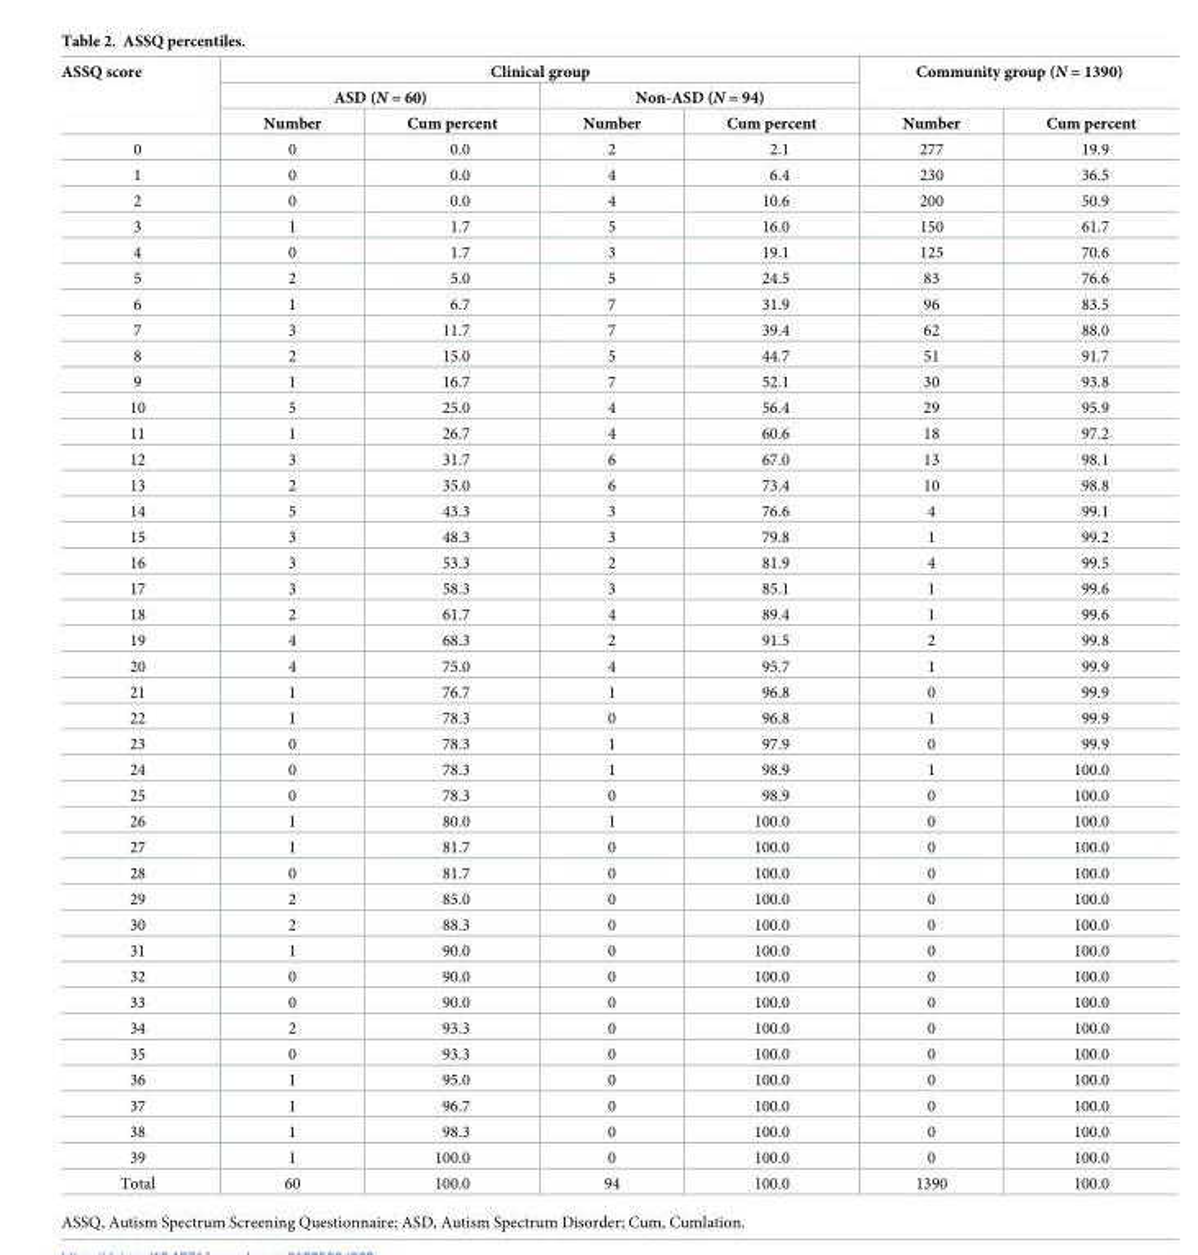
<table><thead><tr><td rowspan="3">ASSQ score</td><td colspan="4">Clinical group</td><td rowspan="2" colspan="2">Community group (N = 1390)</td></tr><tr><td colspan="2">ASD (N = 60)</td><td colspan="2">Non-ASD (N = 94)</td></tr><tr><td>Number</td><td>Cum percent</td><td>Number</td><td>Cum percent</td><td>Number</td><td>Cum percent</td></tr></thead><tbody><tr><td>0</td><td>0</td><td>0.0</td><td>2</td><td>2.1</td><td>277</td><td>19.9</td></tr><tr><td>1</td><td>0</td><td>0.0</td><td>4</td><td>6.4</td><td>230</td><td>36.5</td></tr><tr><td>2</td><td>0</td><td>0.0</td><td>4</td><td>10.6</td><td>200</td><td>50.9</td></tr><tr><td>3</td><td>1</td><td>1.7</td><td>5</td><td>16.0</td><td>150</td><td>61.7</td></tr><tr><td>4</td><td>0</td><td>1.7</td><td>3</td><td>19.1</td><td>125</td><td>70.6</td></tr><tr><td>5</td><td>2</td><td>5.0</td><td>5</td><td>24.5</td><td>83</td><td>76.6</td></tr><tr><td>6</td><td>1</td><td>6.7</td><td>7</td><td>31.9</td><td>96</td><td>83.5</td></tr><tr><td>7</td><td>3</td><td>11.7</td><td>7</td><td>39.4</td><td>62</td><td>88.0</td></tr><tr><td>8</td><td>2</td><td>15.0</td><td>5</td><td>44.7</td><td>51</td><td>91.7</td></tr><tr><td>9</td><td>1</td><td>16.7</td><td>7</td><td>52.1</td><td>30</td><td>93.8</td></tr><tr><td>10</td><td>5</td><td>25.0</td><td>4</td><td>56.4</td><td>29</td><td>95.9</td></tr><tr><td>11</td><td>1</td><td>26.7</td><td>4</td><td>60.6</td><td>18</td><td>97.2</td></tr><tr><td>12</td><td>3</td><td>31.7</td><td>6</td><td>67.0</td><td>13</td><td>98.1</td></tr><tr><td>13</td><td>2</td><td>35.0</td><td>6</td><td>73.4</td><td>10</td><td>98.8</td></tr><tr><td>14</td><td>5</td><td>43.3</td><td>3</td><td>76.6</td><td>4</td><td>99.1</td></tr><tr><td>15</td><td>3</td><td>48.3</td><td>3</td><td>79.8</td><td>1</td><td>99.2</td></tr><tr><td>16</td><td>3</td><td>53.3</td><td>2</td><td>81.9</td><td>4</td><td>99.5</td></tr><tr><td>17</td><td>3</td><td>58.3</td><td>3</td><td>85.1</td><td>1</td><td>99.6</td></tr><tr><td>18</td><td>2</td><td>61.7</td><td>4</td><td>89.4</td><td>1</td><td>99.6</td></tr><tr><td>19</td><td>4</td><td>68.3</td><td>2</td><td>91.5</td><td>2</td><td>99.8</td></tr><tr><td>20</td><td>4</td><td>75.0</td><td>4</td><td>95.7</td><td>1</td><td>99.9</td></tr><tr><td>21</td><td>1</td><td>76.7</td><td>1</td><td>96.8</td><td>0</td><td>99.9</td></tr><tr><td>22</td><td>1</td><td>78.3</td><td>0</td><td>96.8</td><td>1</td><td>99.9</td></tr><tr><td>23</td><td>0</td><td>78.3</td><td>1</td><td>97.9</td><td>0</td><td>99.9</td></tr><tr><td>24</td><td>0</td><td>78.3</td><td>1</td><td>98.9</td><td>1</td><td>100.0</td></tr><tr><td>25</td><td>0</td><td>78.3</td><td>0</td><td>98.9</td><td>0</td><td>100.0</td></tr><tr><td>26</td><td>1</td><td>80.0</td><td>1</td><td>100.0</td><td>0</td><td>100.0</td></tr><tr><td>27</td><td>1</td><td>81.7</td><td>0</td><td>100.0</td><td>0</td><td>100.0</td></tr><tr><td>28</td><td>0</td><td>81.7</td><td>0</td><td>100.0</td><td>0</td><td>100.0</td></tr><tr><td>29</td><td>2</td><td>85.0</td><td>0</td><td>100.0</td><td>0</td><td>100.0</td></tr><tr><td>30</td><td>2</td><td>88.3</td><td>0</td><td>100.0</td><td>0</td><td>100.0</td></tr><tr><td>31</td><td>1</td><td>90.0</td><td>0</td><td>100.0</td><td>0</td><td>100.0</td></tr><tr><td>32</td><td>0</td><td>90.0</td><td>0</td><td>100.0</td><td>0</td><td>100.0</td></tr><tr><td>33</td><td>0</td><td>90.0</td><td>0</td><td>100.0</td><td>0</td><td>100.0</td></tr><tr><td>34</td><td>2</td><td>93.3</td><td>0</td><td>100.0</td><td>0</td><td>100.0</td></tr><tr><td>35</td><td>0</td><td>93.3</td><td>0</td><td>100.0</td><td>0</td><td>100.0</td></tr><tr><td>36</td><td>1</td><td>95.0</td><td>0</td><td>100.0</td><td>0</td><td>100.0</td></tr><tr><td>37</td><td>1</td><td>96.7</td><td>0</td><td>100.0</td><td>0</td><td>100.0</td></tr><tr><td>38</td><td>1</td><td>98.3</td><td>0</td><td>100.0</td><td>0</td><td>100.0</td></tr><tr><td>39</td><td>1</td><td>100.0</td><td>0</td><td>100.0</td><td>0</td><td>100.0</td></tr><tr><td>Total</td><td>60</td><td>100.0</td><td>94</td><td>100.0</td><td>1390</td><td>100.0</td></tr></tbody></table>